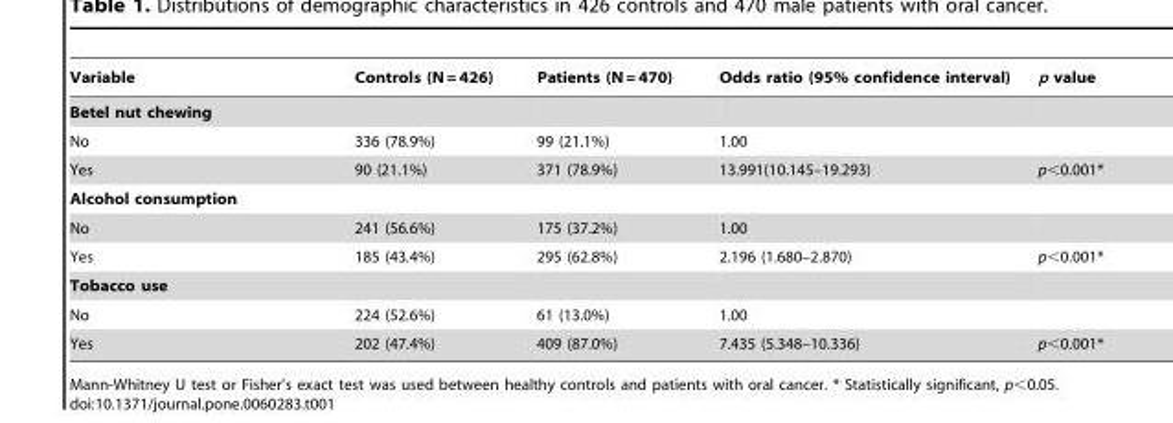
<table><thead><tr><td>Variable</td><td>Controls (N = 426)</td><td>Patients (N = 470)</td><td>Odds ratio (95% confidence interval)</td><td>p value</td></tr></thead><tbody><tr><td colspan="5">Betel nut chewing</td></tr><tr><td>No</td><td>336 (78.9%)</td><td>99 (21.1%)</td><td>1.00</td><td></td></tr><tr><td>Yes</td><td>90 (21.1%)</td><td>371 (78.9%)</td><td>13.991(10.145–19.293)</td><td>p&lt;0.001*</td></tr><tr><td colspan="5">Alcohol consumption</td></tr><tr><td>No</td><td>241 (56.6%)</td><td>175 (37.2%)</td><td>1.00</td><td></td></tr><tr><td>Yes</td><td>185 (43.4%)</td><td>295 (62.8%)</td><td>2.196 (1.680–2.870)</td><td>p&lt;0.001*</td></tr><tr><td colspan="5">Tobacco use</td></tr><tr><td>No</td><td>224 (52.6%)</td><td>61 (13.0%)</td><td>1.00</td><td></td></tr><tr><td>Yes</td><td>202 (47.4%)</td><td>409 (87.0%)</td><td>7.435 (5.348–10.336)</td><td>p&lt;0.001*</td></tr></tbody></table>